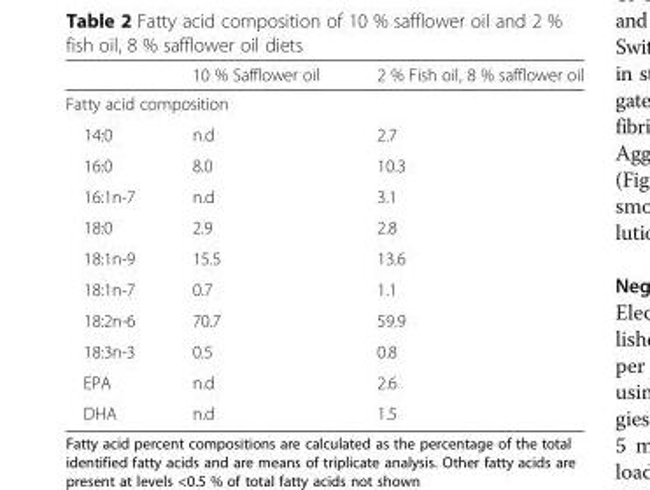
<table><thead><tr><td></td><td>10 % Safflower oil</td><td>2 % Fish oil, 8 % safflower oil</td></tr></thead><tbody><tr><td colspan="3">Fatty acid composition</td></tr><tr><td>14:0</td><td>n.d</td><td>2.7</td></tr><tr><td>16:0</td><td>8.0</td><td>10.3</td></tr><tr><td>16:1n-7</td><td>n.d</td><td>3.1</td></tr><tr><td>18:0</td><td>2.9</td><td>2.8</td></tr><tr><td>18:1n-9</td><td>15.5</td><td>13.6</td></tr><tr><td>18:1n-7</td><td>0.7</td><td>1.1</td></tr><tr><td>18:2n-6</td><td>70.7</td><td>59.9</td></tr><tr><td>18:3n-3</td><td>0.5</td><td>0.8</td></tr><tr><td>EPA</td><td>n.d</td><td>2.6</td></tr><tr><td>DHA</td><td>n.d</td><td>1.5</td></tr></tbody></table>